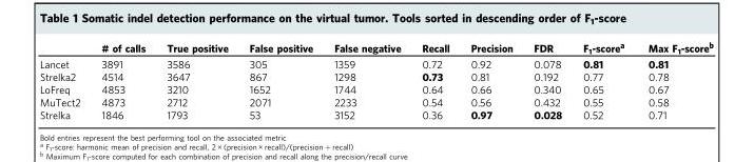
<table><thead><tr><td></td><td># of calls</td><td>True positive</td><td>False positive</td><td>False negative</td><td>Recall</td><td>Precision</td><td>FDR</td><td>F<sub>1</sub>-score<sup>a</sup></td><td>Max F<sub>1</sub>-score<sup>b</sup></td></tr></thead><tbody><tr><td>Lancet</td><td>3891</td><td>3586</td><td>305</td><td>1359</td><td>0.72</td><td>0.92</td><td>0.078</td><td>0.81</td><td>0.81</td></tr><tr><td>Strelka2</td><td>4514</td><td>3647</td><td>867</td><td>1298</td><td>0.73</td><td>0.81</td><td>0.192</td><td>0.77</td><td>0.78</td></tr><tr><td>LoFreq</td><td>4853</td><td>3210</td><td>1652</td><td>1744</td><td>0.64</td><td>0.66</td><td>0.340</td><td>0.65</td><td>0.67</td></tr><tr><td>MuTect2</td><td>4873</td><td>2712</td><td>2071</td><td>2233</td><td>0.54</td><td>0.56</td><td>0.432</td><td>0.55</td><td>0.58</td></tr><tr><td>Strelka</td><td>1846</td><td>1793</td><td>53</td><td>3152</td><td>0.36</td><td>0.97</td><td>0.028</td><td>0.52</td><td>0.71</td></tr></tbody></table>